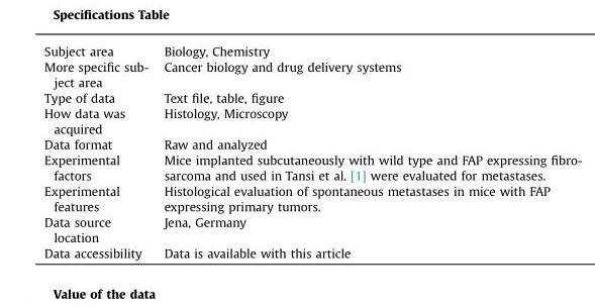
<table><tbody><tr><td>Subject area</td><td>Biology, Chemistry</td></tr><tr><td>More specific sub- ject area</td><td>Cancer biology and drug delivery systems</td></tr><tr><td>Type of data</td><td>Text file, table, figure</td></tr><tr><td>How data was acquired</td><td>Histology, Microscopy</td></tr><tr><td>Data format</td><td>Raw and analyzed</td></tr><tr><td>Experimental factors</td><td>Mice implanted subcutaneously with wild type and FAP expressing sarcoma and used in Tansi et al. [1] were evaluated for metastases.</td></tr><tr><td>Experimental features</td><td>Histological evaluation of spontaneous metastases in mice with FAP expressing primary tumors.</td></tr><tr><td>Data source location</td><td>Jena, Germany</td></tr><tr><td>Data accessibility</td><td>Data is available with this article</td></tr></tbody></table>